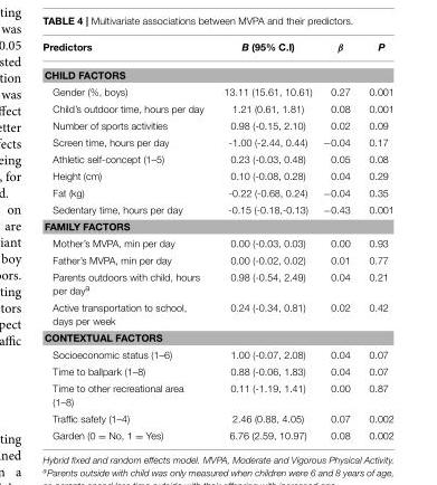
<table><thead><tr><td>Predictors</td><td>B (95% C.I)</td><td>β</td><td>P</td></tr></thead><tbody><tr><td colspan="4">CHILD FACTORS</td></tr><tr><td>Gender (%, boys)</td><td>13.11 (15.61, 10.61)</td><td>0.27</td><td>0.001</td></tr><tr><td>Child’s outdoor time, hours per day</td><td>1.21 (0.61, 1.81)</td><td>0.08</td><td>0.001</td></tr><tr><td>Number of sports activities</td><td>0.98 (-0.15, 2.10)</td><td>0.02</td><td>0.09</td></tr><tr><td>Screen time, hours per day</td><td>-1.00 (-2.44, 0.44)</td><td>−0.04</td><td>0.17</td></tr><tr><td>Athletic self-concept (1–5)</td><td>0.23 (-0.03, 0.48)</td><td>0.05</td><td>0.08</td></tr><tr><td>Height (cm)</td><td>0.10 (-0.08, 0.28)</td><td>0.04</td><td>0.29</td></tr><tr><td>Fat (kg)</td><td>-0.22 (-0.68, 0.24)</td><td>−0.04</td><td>0.35</td></tr><tr><td>Sedentary time, hours per day</td><td>-0.15 (-0.18,-0.13)</td><td>−0.43</td><td>0.001</td></tr><tr><td colspan="4">FAMILY FACTORS</td></tr><tr><td>Mother’s MVPA, min per day</td><td>0.00 (-0.03, 0.03)</td><td>0.00</td><td>0.93</td></tr><tr><td>Father’s MVPA, min per day</td><td>0.00 (-0.02, 0.02)</td><td>0.01</td><td>0.77</td></tr><tr><td>Parents outdoors with child, hours per day<sup>a</sup></td><td>0.98 (-0.54, 2.49)</td><td>0.04</td><td>0.21</td></tr><tr><td>Active transportation to school, days per week</td><td>0.24 (-0.34, 0.81)</td><td>0.02</td><td>0.42</td></tr><tr><td colspan="4">CONTEXTUAL FACTORS</td></tr><tr><td>Socioeconomic status (1–6)</td><td>1.00 (-0.07, 2.08)</td><td>0.04</td><td>0.07</td></tr><tr><td>Time to ballpark (1–8)</td><td>0.88 (-0.06, 1.83)</td><td>0.04</td><td>0.07</td></tr><tr><td>Time to other recreational area (1–8)</td><td>0.11 (-1.19, 1.41)</td><td>0.00</td><td>0.87</td></tr><tr><td>Traffic safety (1–4)</td><td>2.46 (0.88, 4.05)</td><td>0.07</td><td>0.002</td></tr><tr><td>Garden (0 = No, 1 = Yes)</td><td>6.76 (2.59, 10.97)</td><td>0.08</td><td>0.002</td></tr></tbody></table>